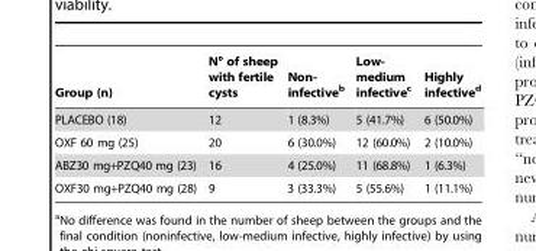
<table><thead><tr><td>Group (n)</td><td>N° of sheep with fertile cysts</td><td>Non- infectiveb</td><td>Low- medium infective<sup>c</sup></td><td>Highly infective<sup>d</sup></td></tr></thead><tbody><tr><td>PLACEBO (18)</td><td>12</td><td>1 (8.3%)</td><td>5 (41.7%)</td><td>6 (50.0%)</td></tr><tr><td>OXF 60 mg (25)</td><td>20</td><td>6 (30.0%)</td><td>12 (60.0%)</td><td>2 (10.0%)</td></tr><tr><td>ABZ30 mg+PZQ40 mg (23)</td><td>16</td><td>4 (25.0%)</td><td>11 (68.8%)</td><td>1 (6.3%)</td></tr><tr><td>OXF30 mg+PZQ40 mg (28)</td><td>9</td><td>3 (33.3%)</td><td>5 (55.6%)</td><td>1 (11.1%)</td></tr></tbody></table>